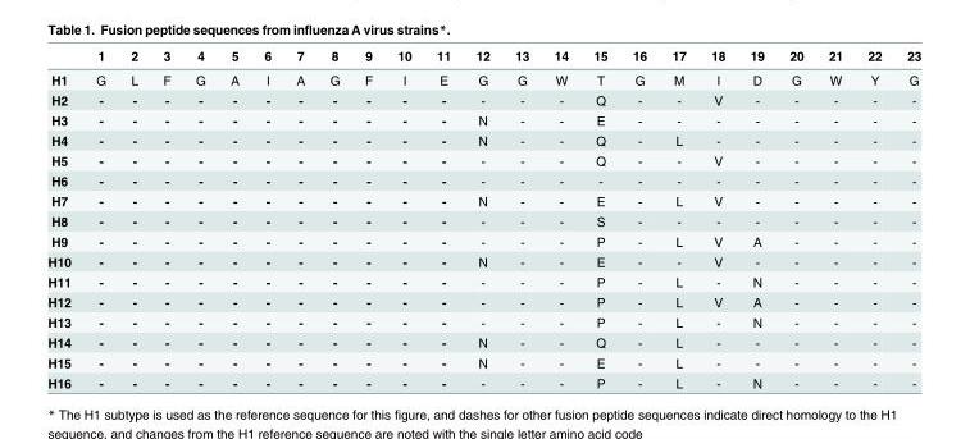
<table><thead><tr><td></td><td>1</td><td>2</td><td>3</td><td>4</td><td>5</td><td>6</td><td>7</td><td>8</td><td>9</td><td>10</td><td>11</td><td>12</td><td>13</td><td>14</td><td>15</td><td>16</td><td>17</td><td>18</td><td>19</td><td>20</td><td>21</td><td>22</td><td>23</td></tr></thead><tbody><tr><td>H1</td><td>G</td><td>L</td><td>F</td><td>G</td><td>A</td><td>I</td><td>A</td><td>G</td><td>F</td><td>I</td><td>E</td><td>G</td><td>G</td><td>W</td><td>T</td><td>G</td><td>M</td><td>I</td><td>D</td><td>G</td><td>W</td><td>Y</td><td>G</td></tr><tr><td>H2</td><td>-</td><td>-</td><td>-</td><td>-</td><td>-</td><td>-</td><td>-</td><td>-</td><td>-</td><td>-</td><td>-</td><td>-</td><td>-</td><td>-</td><td>Q</td><td>-</td><td>-</td><td>V</td><td>-</td><td>-</td><td>-</td><td>-</td><td>-</td></tr><tr><td>H3</td><td>-</td><td>-</td><td>-</td><td>-</td><td>-</td><td>-</td><td>-</td><td>-</td><td>-</td><td>-</td><td>-</td><td>N</td><td>-</td><td>-</td><td>E</td><td>-</td><td>-</td><td>-</td><td>-</td><td>-</td><td>-</td><td>-</td><td>-</td></tr><tr><td>H4</td><td>-</td><td>-</td><td>-</td><td>-</td><td>-</td><td>-</td><td>-</td><td>-</td><td>-</td><td>-</td><td>-</td><td>N</td><td>-</td><td>-</td><td>Q</td><td>-</td><td>L</td><td>-</td><td>-</td><td>-</td><td>-</td><td>-</td><td>-</td></tr><tr><td>H5</td><td>-</td><td>-</td><td>-</td><td>-</td><td>-</td><td>-</td><td>-</td><td>-</td><td>-</td><td>-</td><td>-</td><td>-</td><td>-</td><td>-</td><td>Q</td><td>-</td><td>-</td><td>V</td><td>-</td><td>-</td><td>-</td><td>-</td><td>-</td></tr><tr><td>H6</td><td>-</td><td>-</td><td>-</td><td>-</td><td>-</td><td>-</td><td>-</td><td>-</td><td>-</td><td>-</td><td>-</td><td>-</td><td>-</td><td>-</td><td>-</td><td>-</td><td>-</td><td>-</td><td>-</td><td>-</td><td>-</td><td>-</td><td>-</td></tr><tr><td>H7</td><td>-</td><td>-</td><td>-</td><td>-</td><td>-</td><td>-</td><td>-</td><td>-</td><td>-</td><td>-</td><td>-</td><td>N</td><td>-</td><td>-</td><td>E</td><td>-</td><td>L</td><td>V</td><td>-</td><td>-</td><td>-</td><td>-</td><td>-</td></tr><tr><td>H8</td><td>-</td><td>-</td><td>-</td><td>-</td><td>-</td><td>-</td><td>-</td><td>-</td><td>-</td><td>-</td><td>-</td><td>-</td><td>-</td><td>-</td><td>S</td><td>-</td><td>-</td><td>-</td><td>-</td><td>-</td><td>-</td><td>-</td><td>-</td></tr><tr><td>H9</td><td>-</td><td>-</td><td>-</td><td>-</td><td>-</td><td>-</td><td>-</td><td>-</td><td>-</td><td>-</td><td>-</td><td>-</td><td>-</td><td>-</td><td>P</td><td>-</td><td>L</td><td>V</td><td>A</td><td>-</td><td>-</td><td>-</td><td>-</td></tr><tr><td>H10</td><td>-</td><td>-</td><td>-</td><td>-</td><td>-</td><td>-</td><td>-</td><td>-</td><td>-</td><td>-</td><td>-</td><td>N</td><td>-</td><td>-</td><td>E</td><td>-</td><td>-</td><td>V</td><td>-</td><td>-</td><td>-</td><td>-</td><td>-</td></tr><tr><td>H11</td><td>-</td><td>-</td><td>-</td><td>-</td><td>-</td><td>-</td><td>-</td><td>-</td><td>-</td><td>-</td><td>-</td><td>-</td><td>-</td><td>-</td><td>P</td><td>-</td><td>L</td><td>-</td><td>N</td><td>-</td><td>-</td><td>-</td><td>-</td></tr><tr><td>H12</td><td>-</td><td>-</td><td>-</td><td>-</td><td>-</td><td>-</td><td>-</td><td>-</td><td>-</td><td>-</td><td>-</td><td>-</td><td>-</td><td>-</td><td>P</td><td>-</td><td>L</td><td>V</td><td>A</td><td>-</td><td>-</td><td>-</td><td>-</td></tr><tr><td>H13</td><td>-</td><td>-</td><td>-</td><td>-</td><td>-</td><td>-</td><td>-</td><td>-</td><td>-</td><td>-</td><td>-</td><td>-</td><td>-</td><td>-</td><td>P</td><td>-</td><td>L</td><td>-</td><td>N</td><td>-</td><td>-</td><td>-</td><td>-</td></tr><tr><td>H14</td><td>-</td><td>-</td><td>-</td><td>-</td><td>-</td><td>-</td><td>-</td><td>-</td><td>-</td><td>-</td><td>-</td><td>N</td><td>-</td><td>-</td><td>Q</td><td>-</td><td>L</td><td>-</td><td>-</td><td>-</td><td>-</td><td>-</td><td>-</td></tr><tr><td>H15</td><td>-</td><td>-</td><td>-</td><td>-</td><td>-</td><td>-</td><td>-</td><td>-</td><td>-</td><td>-</td><td>-</td><td>N</td><td>-</td><td>-</td><td>E</td><td>-</td><td>L</td><td>-</td><td>-</td><td>-</td><td>-</td><td>-</td><td>-</td></tr><tr><td>H16</td><td>-</td><td>-</td><td>-</td><td>-</td><td>-</td><td>-</td><td>-</td><td>-</td><td>-</td><td>-</td><td>-</td><td>-</td><td>-</td><td>-</td><td>P</td><td>-</td><td>L</td><td>-</td><td>N</td><td>-</td><td>-</td><td>-</td><td>-</td></tr></tbody></table>